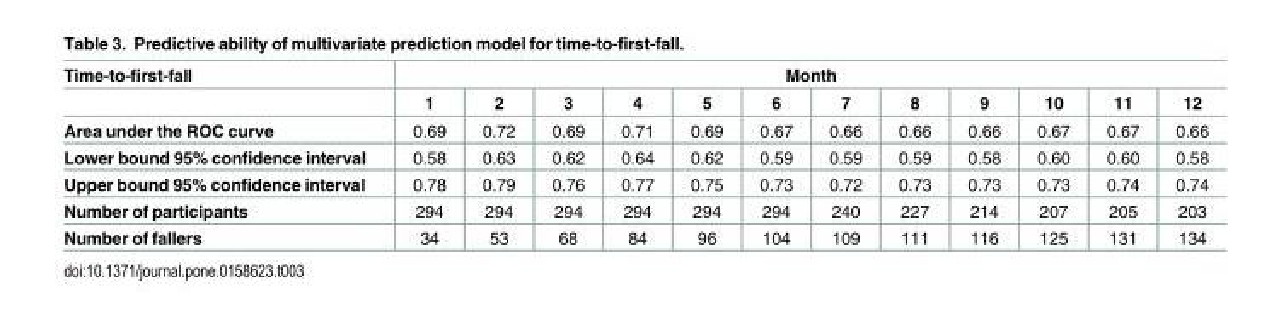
<table><thead><tr><td rowspan="2">Time-to-first-fall</td><td colspan="12">Month</td></tr><tr><td>1</td><td>2</td><td>3</td><td>4</td><td>5</td><td>6</td><td>7</td><td>8</td><td>9</td><td>10</td><td>11</td><td>12</td></tr></thead><tbody><tr><td>Area under the ROC curve</td><td>0.69</td><td>0.72</td><td>0.69</td><td>0.71</td><td>0.69</td><td>0.67</td><td>0.66</td><td>0.66</td><td>0.66</td><td>0.67</td><td>0.67</td><td>0.66</td></tr><tr><td>Lower bound 95% confidence interval</td><td>0.58</td><td>0.63</td><td>0.62</td><td>0.64</td><td>0.62</td><td>0.59</td><td>0.59</td><td>0.59</td><td>0.58</td><td>0.60</td><td>0.60</td><td>0.58</td></tr><tr><td>Upper bound 95% confidence interval</td><td>0.78</td><td>0.79</td><td>0.76</td><td>0.77</td><td>0.75</td><td>0.73</td><td>0.72</td><td>0.73</td><td>0.73</td><td>0.73</td><td>0.74</td><td>0.74</td></tr><tr><td>Number of participants</td><td>294</td><td>294</td><td>294</td><td>294</td><td>294</td><td>294</td><td>240</td><td>227</td><td>214</td><td>207</td><td>205</td><td>203</td></tr><tr><td>Number of fallers</td><td>34</td><td>53</td><td>68</td><td>84</td><td>96</td><td>104</td><td>109</td><td>111</td><td>116</td><td>125</td><td>131</td><td>134</td></tr></tbody></table>